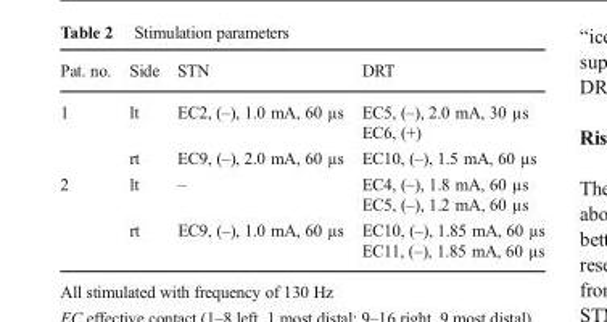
<table><thead><tr><td>Pat. no.</td><td>Side</td><td>STN</td><td>DRT</td></tr></thead><tbody><tr><td rowspan="2">1</td><td>lt</td><td>EC2, (–), 1.0 mA, 60 µs</td><td>EC5, (–), 2.0 mA, 30 µs EC6, (+)</td></tr><tr><td>rt</td><td>EC9, (–), 2.0 mA, 60 µs</td><td>EC10, (–), 1.5 mA, 60 µs</td></tr><tr><td rowspan="2">2</td><td>lt</td><td>–</td><td>EC4, (–), 1.8 mA, 60 µs EC5, (–), 1.2 mA, 60 µs</td></tr><tr><td>rt</td><td>EC9, (–), 1.0 mA, 60 µs</td><td>EC10, (–), 1.85 mA, 60 µs EC11, (–), 1.85 mA, 60 µs</td></tr></tbody></table>